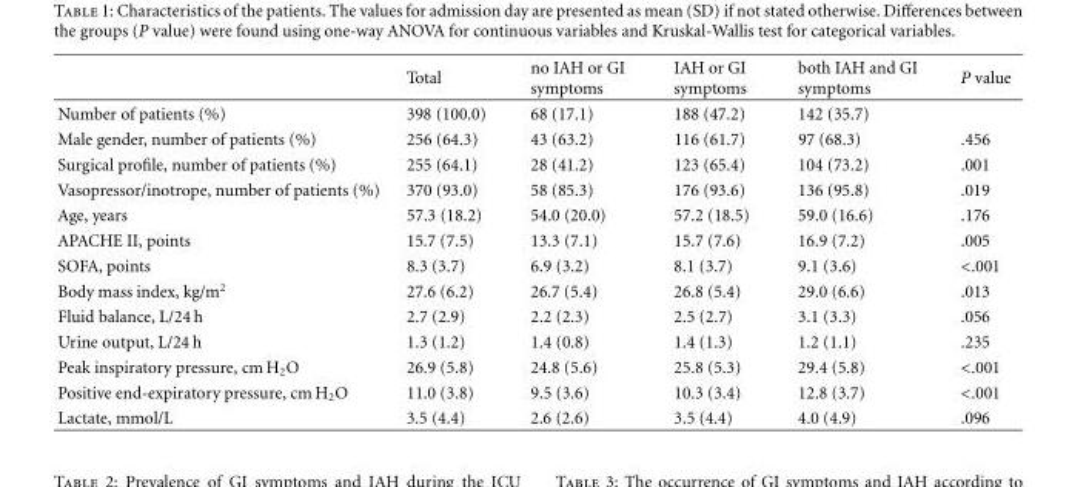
<table><thead><tr><td></td><td>Total</td><td>no IAH or GI symptoms</td><td>IAH or GI symptoms</td><td>both IAH and GI symptoms</td><td>P value</td></tr></thead><tbody><tr><td>Number of patients (%)</td><td>398 (100.0)</td><td>68 (17.1)</td><td>188 (47.2)</td><td>142 (35.7)</td><td></td></tr><tr><td>Male gender, number of patients (%)</td><td>256 (64.3)</td><td>43 (63.2)</td><td>116 (61.7)</td><td>97 (68.3)</td><td>.456</td></tr><tr><td>Surgical profile, number of patients (%)</td><td>255 (64.1)</td><td>28 (41.2)</td><td>123 (65.4)</td><td>104 (73.2)</td><td>.001</td></tr><tr><td>Vasopressor/inotrope, number of patients (%)</td><td>370 (93.0)</td><td>58 (85.3)</td><td>176 (93.6)</td><td>136 (95.8)</td><td>.019</td></tr><tr><td>Age, years</td><td>57.3 (18.2)</td><td>54.0 (20.0)</td><td>57.2 (18.5)</td><td>59.0 (16.6)</td><td>.176</td></tr><tr><td>APACHE II, points</td><td>15.7 (7.5)</td><td>13.3 (7.1)</td><td>15.7 (7.6)</td><td>16.9 (7.2)</td><td>.005</td></tr><tr><td>SOFA, points</td><td>8.3 (3.7)</td><td>6.9 (3.2)</td><td>8.1 (3.7)</td><td>9.1 (3.6)</td><td>&lt;.001</td></tr><tr><td>Body mass index, kg/m<sup>2</sup></td><td>27.6 (6.2)</td><td>26.7 (5.4)</td><td>26.8 (5.4)</td><td>29.0 (6.6)</td><td>.013</td></tr><tr><td>Fluid balance, L/24 h</td><td>2.7 (2.9)</td><td>2.2 (2.3)</td><td>2.5 (2.7)</td><td>3.1 (3.3)</td><td>.056</td></tr><tr><td>Urine output, L/24 h</td><td>1.3 (1.2)</td><td>1.4 (0.8)</td><td>1.4 (1.3)</td><td>1.2 (1.1)</td><td>.235</td></tr><tr><td>Peak inspiratory pressure, cm H<sub>2</sub>O</td><td>26.9 (5.8)</td><td>24.8 (5.6)</td><td>25.8 (5.3)</td><td>29.4 (5.8)</td><td>&lt;.001</td></tr><tr><td>Positive end-expiratory pressure, cm H<sub>2</sub>O</td><td>11.0 (3.8)</td><td>9.5 (3.6)</td><td>10.3 (3.4)</td><td>12.8 (3.7)</td><td>&lt;.001</td></tr><tr><td>Lactate, mmol/L</td><td>3.5 (4.4)</td><td>2.6 (2.6)</td><td>3.5 (4.4)</td><td>4.0 (4.9)</td><td>.096</td></tr></tbody></table>